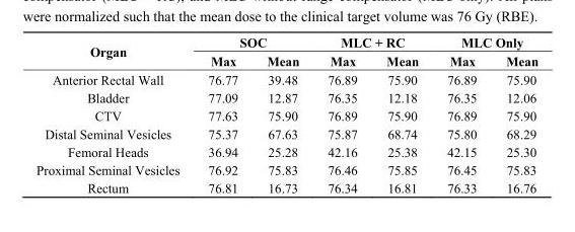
<table><thead><tr><td rowspan="2">Organ</td><td colspan="2">SOC</td><td colspan="2">MLC + RC</td><td colspan="2">MLC Only</td></tr><tr><td>Max</td><td>Mean</td><td>Max</td><td>Mean</td><td>Max</td><td>Mean</td></tr></thead><tbody><tr><td>Anterior Rectal Wall</td><td>76.77</td><td>39.48</td><td>76.89</td><td>75.90</td><td>76.89</td><td>75.90</td></tr><tr><td>Bladder</td><td>77.09</td><td>12.87</td><td>76.35</td><td>12.18</td><td>76.35</td><td>12.06</td></tr><tr><td>CTV</td><td>77.63</td><td>75.90</td><td>76.89</td><td>75.90</td><td>76.89</td><td>75.90</td></tr><tr><td>Distal Seminal Vesicles</td><td>75.37</td><td>67.63</td><td>75.87</td><td>68.74</td><td>75.80</td><td>68.29</td></tr><tr><td>Femoral Heads</td><td>36.94</td><td>25.28</td><td>42.16</td><td>25.38</td><td>42.15</td><td>25.30</td></tr><tr><td>Proximal Seminal Vesicles</td><td>76.92</td><td>75.83</td><td>76.46</td><td>75.85</td><td>76.45</td><td>75.83</td></tr><tr><td>Rectum</td><td>76.81</td><td>16.73</td><td>76.34</td><td>16.81</td><td>76.33</td><td>16.76</td></tr></tbody></table>